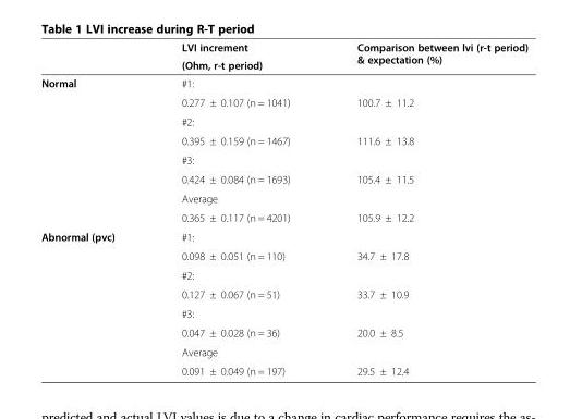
<table><thead><tr><td rowspan="2"></td><td rowspan="2">LVI increment (Ohm, r-t period)</td><td rowspan="2">Comparison between lvi (r-t period) &amp; expectation (%)</td></tr><tr></tr></thead><tbody><tr><td rowspan="8">Normal</td><td>#1:</td><td></td></tr><tr><td>0.277 ± 0.107 (n = 1041)</td><td>100.7 ± 11.2</td></tr><tr><td>#2:</td><td></td></tr><tr><td>0.395 ± 0.159 (n = 1467)</td><td>111.6 ± 13.8</td></tr><tr><td>#3:</td><td></td></tr><tr><td>0.424 ± 0.084 (n = 1693)</td><td>105.4 ± 11.5</td></tr><tr><td>Average</td><td></td></tr><tr><td>0.365 ± 0.117 (n = 4201)</td><td>105.9 ± 12.2</td></tr><tr><td rowspan="8">Abnormal (pvc)</td><td>#1:</td><td></td></tr><tr><td>0.098 ± 0.051 (n = 110)</td><td>34.7 ± 17.8</td></tr><tr><td>#2:</td><td></td></tr><tr><td>0.127 ± 0.067 (n = 51)</td><td>33.7 ± 10.9</td></tr><tr><td>#3:</td><td></td></tr><tr><td>0.047 ± 0.028 (n = 36)</td><td>20.0 ± 8.5</td></tr><tr><td>Average</td><td></td></tr><tr><td>0.091 ± 0.049 (n = 197)</td><td>29.5 ± 12.4</td></tr></tbody></table>